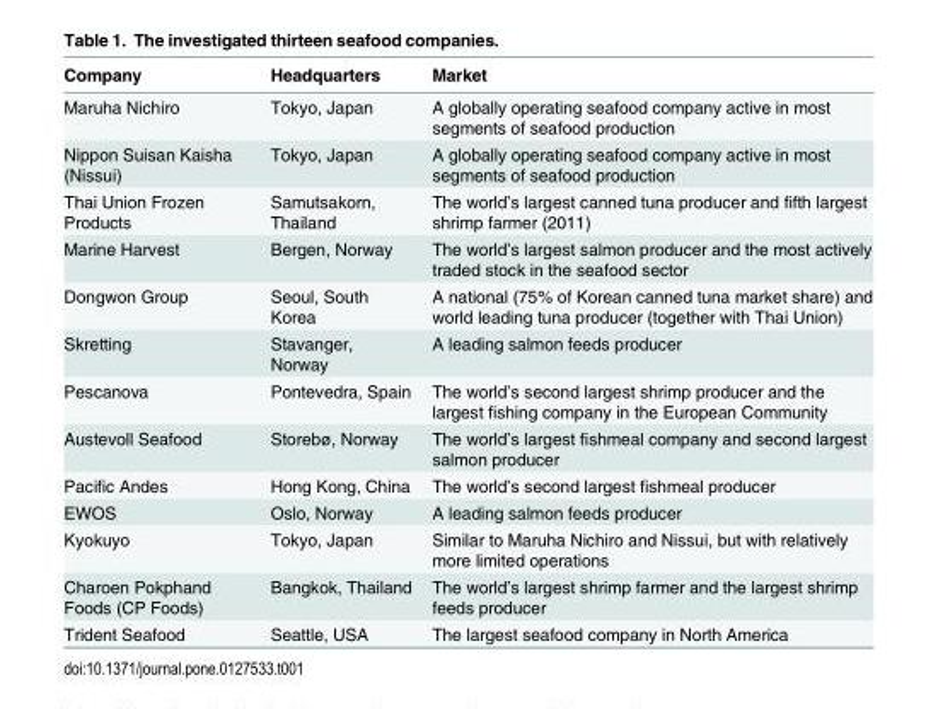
<table><thead><tr><td>Company</td><td>Headquarters</td><td>Market</td></tr></thead><tbody><tr><td>Maruha Nichiro</td><td>Tokyo, Japan</td><td>A globally operating seafood company active in most segments of seafood production</td></tr><tr><td>Nippon Suisan Kaisha (Nissui)</td><td>Tokyo, Japan</td><td>A globally operating seafood company active in most segments of seafood production</td></tr><tr><td>Thai Union Frozen Products</td><td>Samutsakorn, Thailand</td><td>The world’s largest canned tuna producer and fifth largest shrimp farmer (2011)</td></tr><tr><td>Marine Harvest</td><td>Bergen, Norway</td><td>The world’s largest salmon producer and the most actively traded stock in the seafood sector</td></tr><tr><td>Dongwon Group</td><td>Seoul, South Korea</td><td>A national (75% of Korean canned tuna market share) and world leading tuna producer (together with Thai Union)</td></tr><tr><td>Skretting</td><td>Stavanger, Norway</td><td>A leading salmon feeds producer</td></tr><tr><td>Pescanova</td><td>Pontevedra, Spain</td><td>The world’s second largest shrimp producer and the largest fishing company in the European Community</td></tr><tr><td>Austevoll Seafood</td><td>Storebø, Norway</td><td>The world’s largest fishmeal company and second largest salmon producer</td></tr><tr><td>Pacific Andes</td><td>Hong Kong, China</td><td>The world’s second largest fishmeal producer</td></tr><tr><td>EWOS</td><td>Oslo, Norway</td><td>A leading salmon feeds producer</td></tr><tr><td>Kyokuyo</td><td>Tokyo, Japan</td><td>Similar to Maruha Nichiro and Nissui, but with relatively more limited operations</td></tr><tr><td>Charoen Pokphand Foods (CP Foods)</td><td>Bangkok, Thailand</td><td>The world’s largest shrimp farmer and the largest shrimp feeds producer</td></tr><tr><td>Trident Seafood</td><td>Seattle, USA</td><td>The largest seafood company in North America</td></tr></tbody></table>